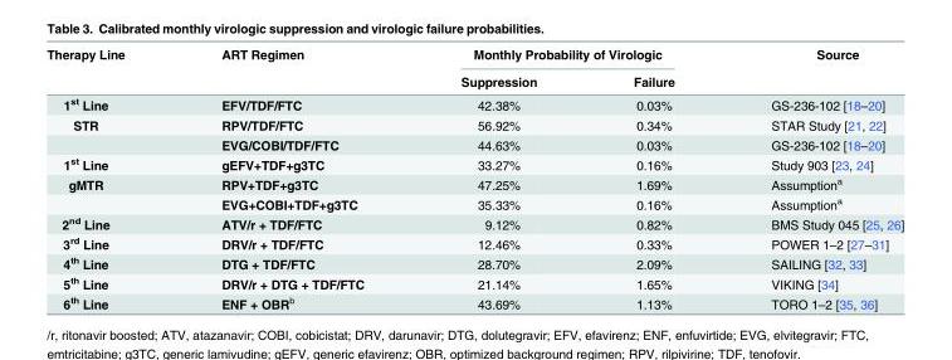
<table><thead><tr><td rowspan="2">Therapy Line</td><td rowspan="2">ART Regimen</td><td colspan="2">Monthly Probability of Virologic</td><td rowspan="2">Source</td></tr><tr><td>Suppression</td><td>Failure</td></tr></thead><tbody><tr><td>1<sup>st</sup> Line</td><td>EFV/TDF/FTC</td><td>42.38%</td><td>0.03%</td><td>GS-236-102 [18–20]</td></tr><tr><td rowspan="2">STR</td><td>RPV/TDF/FTC</td><td>56.92%</td><td>0.34%</td><td>STAR Study [21, 22]</td></tr><tr><td>EVG/COBI/TDF/FTC</td><td>44.63%</td><td>0.03%</td><td>GS-236-102 [18–20]</td></tr><tr><td>1<sup>st</sup> Line</td><td>gEFV+TDF+g3TC</td><td>33.27%</td><td>0.16%</td><td>Study 903 [23, 24]</td></tr><tr><td rowspan="2">gMTR</td><td>RPV+TDF+g3TC</td><td>47.25%</td><td>1.69%</td><td>Assumption<sup>a</sup></td></tr><tr><td>EVG+COBI+TDF+g3TC</td><td>35.33%</td><td>0.16%</td><td>Assumption<sup>a</sup></td></tr><tr><td>2<sup>nd</sup> Line</td><td>ATV/r + TDF/FTC</td><td>9.12%</td><td>0.82%</td><td>BMS Study 045 [25, 26]</td></tr><tr><td>3<sup>rd</sup> Line</td><td>DRV/r + TDF/FTC</td><td>12.46%</td><td>0.33%</td><td>POWER 1–2 [27–31]</td></tr><tr><td>4<sup>th</sup> Line</td><td>DTG + TDF/FTC</td><td>28.70%</td><td>2.09%</td><td>SAILING [32, 33]</td></tr><tr><td>5<sup>th</sup> Line</td><td>DRV/r + DTG + TDF/FTC</td><td>21.14%</td><td>1.65%</td><td>VIKING [34]</td></tr><tr><td>6<sup>th</sup> Line</td><td>ENF + OBR<sup>b</sup></td><td>43.69%</td><td>1.13%</td><td>TORO 1–2 [35, 36]</td></tr></tbody></table>